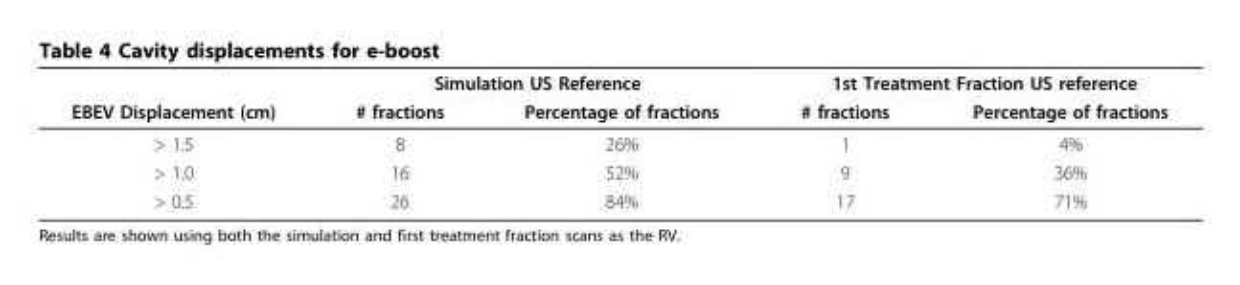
<table><thead><tr><td rowspan="2">EBEV Displacement (cm)</td><td colspan="2">Simulation US Reference</td><td colspan="2">1st Treatment Fraction US reference</td></tr><tr><td># fractions</td><td>Percentage of fractions</td><td># fractions</td><td>Percentage of fractions</td></tr></thead><tbody><tr><td>&gt; 1.5</td><td>8</td><td>26%</td><td>1</td><td>4%</td></tr><tr><td>&gt; 1.0</td><td>16</td><td>52%</td><td>9</td><td>36%</td></tr><tr><td>&gt; 0.5</td><td>26</td><td>84%</td><td>17</td><td>71%</td></tr></tbody></table>